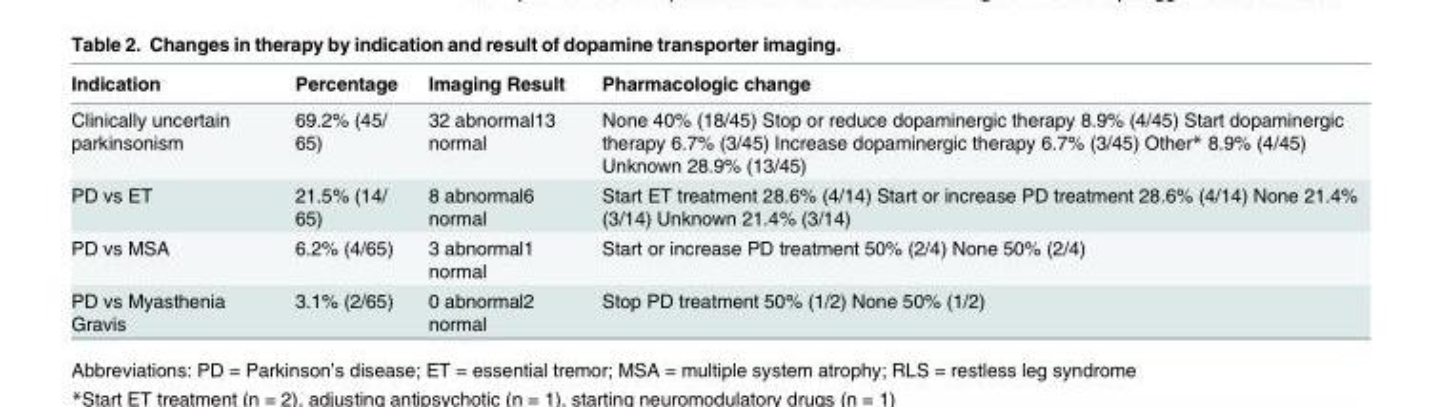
<table><thead><tr><td>Indication</td><td>Percentage</td><td>Imaging Result</td><td>Pharmacologic change</td></tr></thead><tbody><tr><td>Clinically uncertain parkinsonism</td><td>69.2% (45/ 65)</td><td>32 abnormal13 normal</td><td>None 40% (18/45) Stop or reduce dopaminergic therapy 8.9% (4/45) Start dopaminergic therapy 6.7% (3/45) Increase dopaminergic therapy 6.7% (3/45) Other* 8.9% (4/45) Unknown 28.9% (13/45)</td></tr><tr><td>PD vs ET</td><td>21.5% (14/ 65)</td><td>8 abnormal6 normal</td><td>Start ET treatment 28.6% (4/14) Start or increase PD treatment 28.6% (4/14) None 21.4% (3/14) Unknown 21.4% (3/14)</td></tr><tr><td>PD vs MSA</td><td>6.2% (4/65)</td><td>3 abnormal1 normal</td><td>Start or increase PD treatment 50% (2/4) None 50% (2/4)</td></tr><tr><td>PD vs Myasthenia Gravis</td><td>3.1% (2/65)</td><td>0 abnormal2 normal</td><td>Stop PD treatment 50% (1/2) None 50% (1/2)</td></tr></tbody></table>